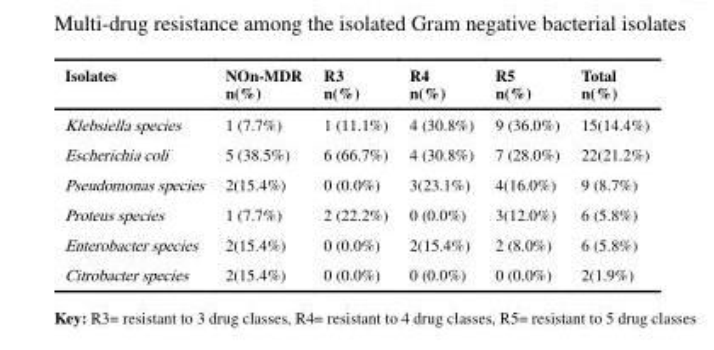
<table><thead><tr><td>Isolates</td><td>NOn-MDR n(%)</td><td>R3 n(%)</td><td>R4 n(%)</td><td>R5 n(%)</td><td>Total n(%)</td></tr></thead><tbody><tr><td>Klebsiella species</td><td>1 (7.7%)</td><td>1 (11.1%)</td><td>4 (30.8%)</td><td>9 (36.0%)</td><td>15(14.4%)</td></tr><tr><td>Escherichia coli</td><td>5 (38.5%)</td><td>6 (66.7%)</td><td>4 (30.8%)</td><td>7 (28.0%)</td><td>22(21.2%)</td></tr><tr><td>Pseudomonas species</td><td>2(15.4%)</td><td>0 (0.0%)</td><td>3(23.1%)</td><td>4(16.0%)</td><td>9 (8.7%)</td></tr><tr><td>Proteus species</td><td>1 (7.7%)</td><td>2 (22.2%)</td><td>0 (0.0%)</td><td>3(12.0%)</td><td>6 (5.8%)</td></tr><tr><td>Enterobacter species</td><td>2(15.4%)</td><td>0 (0.0%)</td><td>2(15.4%)</td><td>2 (8.0%)</td><td>6 (5.8%)</td></tr><tr><td>Citrobacter species</td><td>2(15.4%)</td><td>0 (0.0%)</td><td>0 (0.0%)</td><td>0 (0.0%)</td><td>2(1.9%)</td></tr></tbody></table>